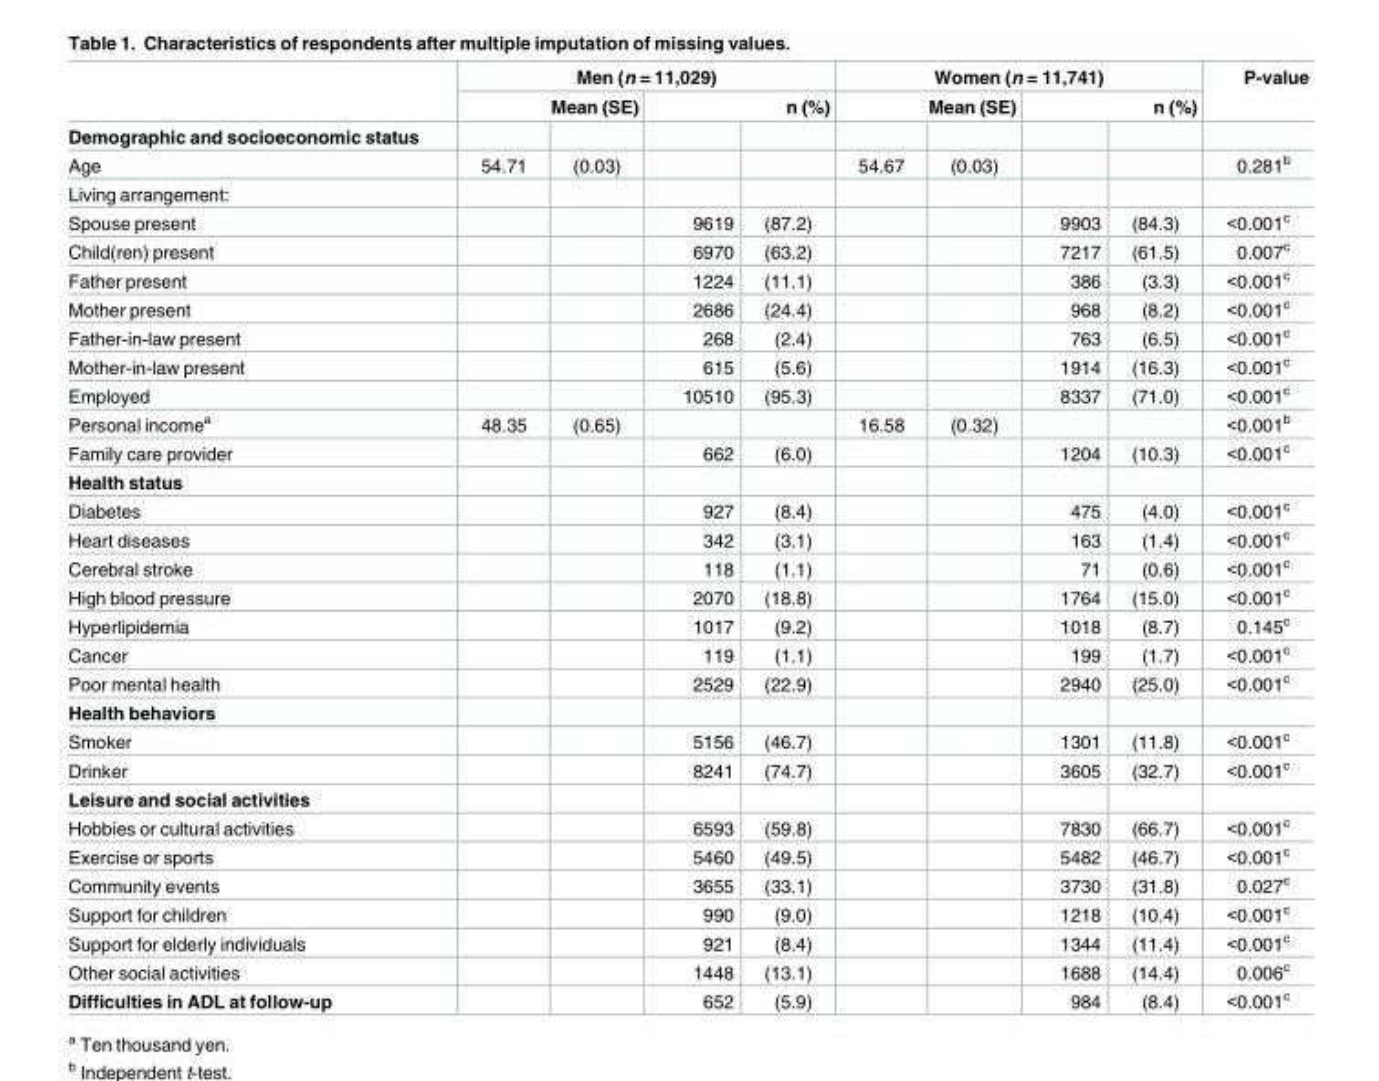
<table><thead><tr><td rowspan="3">Demographic and socioeconomic status</td><td colspan="4">Men (n = 11,029)</td><td colspan="4">Women (n = 11,741)</td><td rowspan="3">P-value</td></tr><tr><td colspan="2">Mean (SE)</td><td colspan="2">n (%)</td><td colspan="2">Mean (SE)</td><td colspan="2">n (%)</td></tr><tr><td></td><td></td><td></td><td></td><td></td><td></td><td></td><td></td></tr></thead><tbody><tr><td>Age</td><td>54.71</td><td>(0.03)</td><td></td><td></td><td>54.67</td><td>(0.03)</td><td></td><td></td><td>0.281<sup>b</sup></td></tr><tr><td colspan="10">Living arrangement:</td></tr><tr><td>Spouse present</td><td></td><td></td><td>9619</td><td>(87.2)</td><td></td><td></td><td>9903</td><td>(84.3)</td><td>&lt;0.001<sup>c</sup></td></tr><tr><td>Child(ren) present</td><td></td><td></td><td>6970</td><td>(63.2)</td><td></td><td></td><td>7217</td><td>(61.5)</td><td>0.007<sup>c</sup></td></tr><tr><td>Father present</td><td></td><td></td><td>1224</td><td>(11.1)</td><td></td><td></td><td>386</td><td>(3.3)</td><td>&lt;0.001<sup>c</sup></td></tr><tr><td>Mother present</td><td></td><td></td><td>2686</td><td>(24.4)</td><td></td><td></td><td>968</td><td>(8.2)</td><td>&lt;0.001<sup>c</sup></td></tr><tr><td>Father-in-law present</td><td></td><td></td><td>268</td><td>(2.4)</td><td></td><td></td><td>763</td><td>(6.5)</td><td>&lt;0.001<sup>c</sup></td></tr><tr><td>Mother-in-law present</td><td></td><td></td><td>615</td><td>(5.6)</td><td></td><td></td><td>1914</td><td>(16.3)</td><td>&lt;0.001<sup>c</sup></td></tr><tr><td>Employed</td><td></td><td></td><td>10510</td><td>(95.3)</td><td></td><td></td><td>8337</td><td>(71.0)</td><td>&lt;0.001<sup>c</sup></td></tr><tr><td>Personal income<sup>a</sup></td><td>48.35</td><td>(0.65)</td><td></td><td></td><td>16.58</td><td>(0.32)</td><td></td><td></td><td>&lt;0.001<sup>b</sup></td></tr><tr><td>Family care provider</td><td></td><td></td><td>662</td><td>(6.0)</td><td></td><td></td><td>1204</td><td>(10.3)</td><td>&lt;0.001<sup>c</sup></td></tr><tr><td colspan="10">Health status</td></tr><tr><td>Diabetes</td><td></td><td></td><td>927</td><td>(8.4)</td><td></td><td></td><td>475</td><td>(4.0)</td><td>&lt;0.001<sup>c</sup></td></tr><tr><td>Heart diseases</td><td></td><td></td><td>342</td><td>(3.1)</td><td></td><td></td><td>163</td><td>(1.4)</td><td>&lt;0.001<sup>c</sup></td></tr><tr><td>Cerebral stroke</td><td></td><td></td><td>118</td><td>(1.1)</td><td></td><td></td><td>71</td><td>(0.6)</td><td>&lt;0.001<sup>c</sup></td></tr><tr><td>High blood pressure</td><td></td><td></td><td>2070</td><td>(18.8)</td><td></td><td></td><td>1764</td><td>(15.0)</td><td>&lt;0.001<sup>c</sup></td></tr><tr><td>Hyperlipidemia</td><td></td><td></td><td>1017</td><td>(9.2)</td><td></td><td></td><td>1018</td><td>(8.7)</td><td>0.145<sup>c</sup></td></tr><tr><td>Cancer</td><td></td><td></td><td>119</td><td>(1.1)</td><td></td><td></td><td>199</td><td>(1.7)</td><td>&lt;0.001<sup>c</sup></td></tr><tr><td>Poor mental health</td><td></td><td></td><td>2529</td><td>(22.9)</td><td></td><td></td><td>2940</td><td>(25.0)</td><td>&lt;0.001<sup>c</sup></td></tr><tr><td colspan="10">Health behaviors</td></tr><tr><td>Smoker</td><td></td><td></td><td>5156</td><td>(46.7)</td><td></td><td></td><td>1301</td><td>(11.8)</td><td>&lt;0.001<sup>c</sup></td></tr><tr><td>Drinker</td><td></td><td></td><td>8241</td><td>(74.7)</td><td></td><td></td><td>3605</td><td>(32.7)</td><td>&lt;0.001<sup>c</sup></td></tr><tr><td colspan="10">Leisure and social activities</td></tr><tr><td>Hobbies or cultural activities</td><td></td><td></td><td>6593</td><td>(59.8)</td><td></td><td></td><td>7830</td><td>(66.7)</td><td>&lt;0.001<sup>c</sup></td></tr><tr><td>Exercise or sports</td><td></td><td></td><td>5460</td><td>(49.5)</td><td></td><td></td><td>5482</td><td>(46.7)</td><td>&lt;0.001<sup>c</sup></td></tr><tr><td>Community events</td><td></td><td></td><td>3655</td><td>(33.1)</td><td></td><td></td><td>3730</td><td>(31.8)</td><td>0.027<sup>c</sup></td></tr><tr><td>Support for children</td><td></td><td></td><td>990</td><td>(9.0)</td><td></td><td></td><td>1218</td><td>(10.4)</td><td>&lt;0.001<sup>c</sup></td></tr><tr><td>Support for elderly individuals</td><td></td><td></td><td>921</td><td>(8.4)</td><td></td><td></td><td>1344</td><td>(11.4)</td><td>&lt;0.001<sup>c</sup></td></tr><tr><td>Other social activities</td><td></td><td></td><td>1448</td><td>(13.1)</td><td></td><td></td><td>1688</td><td>(14.4)</td><td>0.006<sup>c</sup></td></tr><tr><td>Difficulties in ADL at follow-up</td><td></td><td></td><td>652</td><td>(5.9)</td><td></td><td></td><td>984</td><td>(8.4)</td><td>&lt;0.001<sup>c</sup></td></tr></tbody></table>